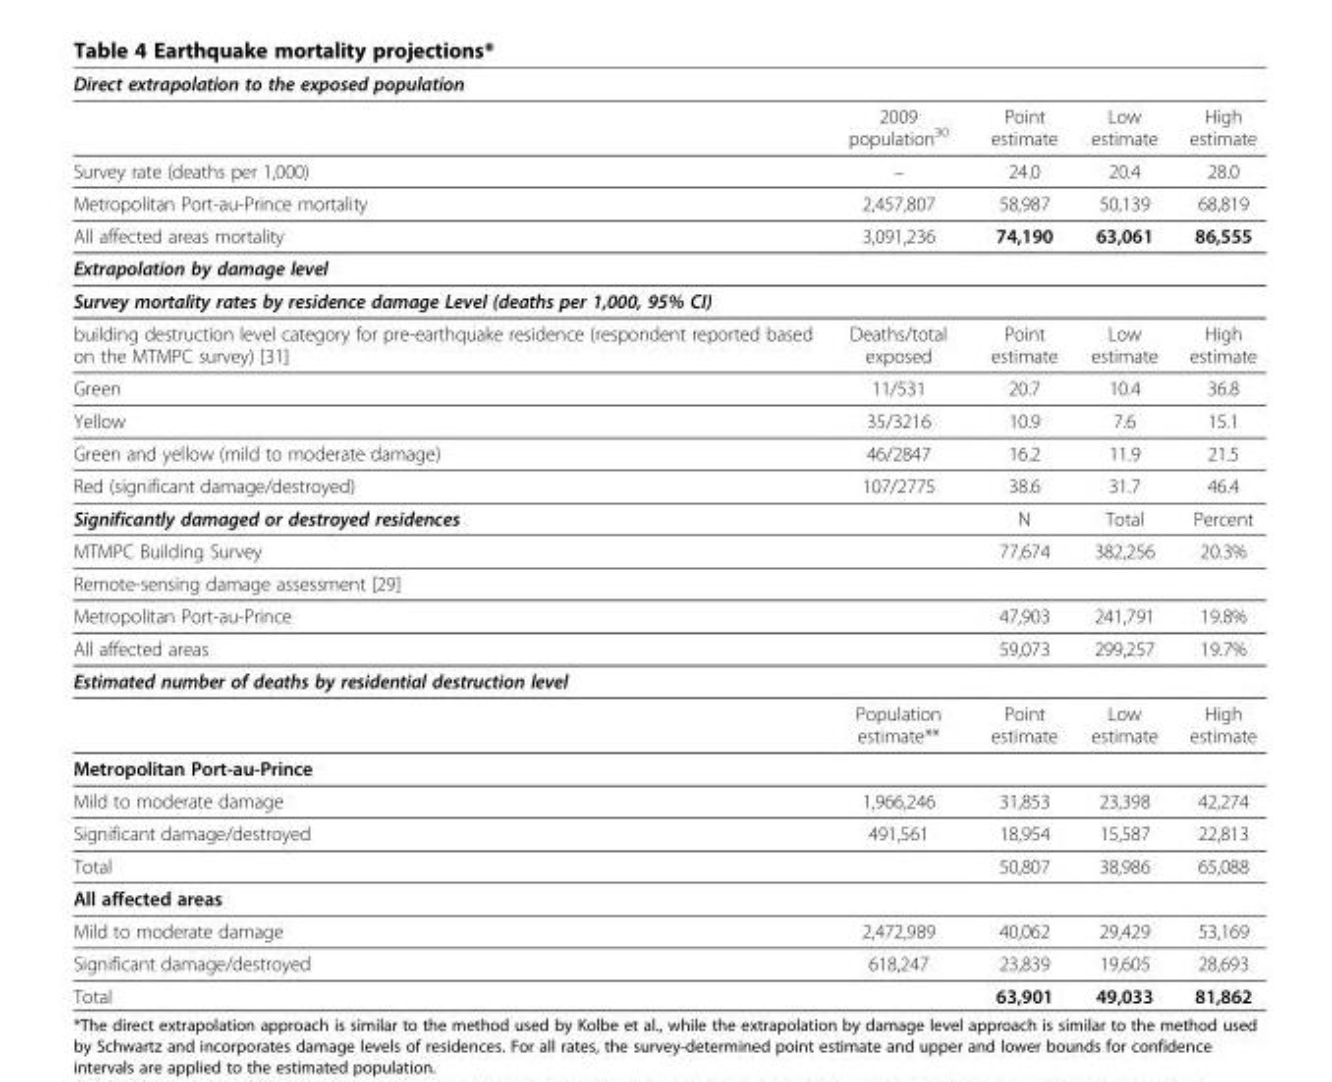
<table><tbody><tr><td colspan="5">Direct extrapolation to the exposed population</td></tr><tr><td></td><td>2009 population<sup>30</sup></td><td>Point estimate</td><td>Low estimate</td><td>High estimate</td></tr><tr><td>Survey rate (deaths per 1,000)</td><td>–</td><td>24.0</td><td>20.4</td><td>28.0</td></tr><tr><td>Metropolitan Port-au-Prince mortality</td><td>2,457,807</td><td>58,987</td><td>50,139</td><td>68,819</td></tr><tr><td>All affected areas mortality</td><td>3,091,236</td><td>74,190</td><td>63,061</td><td>86,555</td></tr><tr><td colspan="5">Extrapolation by damage level</td></tr><tr><td colspan="5">Survey mortality rates by residence damage Level (deaths per 1,000, 95% CI)</td></tr><tr><td>building destruction level category for pre-earthquake residence (respondent reported based on the MTMPC survey) [31]</td><td>Deaths/total exposed</td><td>Point estimate</td><td>Low estimate</td><td>High estimate</td></tr><tr><td>Green</td><td>11/531</td><td>20.7</td><td>10.4</td><td>36.8</td></tr><tr><td>Yellow</td><td>35/3216</td><td>10.9</td><td>7.6</td><td>15.1</td></tr><tr><td>Green and yellow (mild to moderate damage)</td><td>46/2847</td><td>16.2</td><td>11.9</td><td>21.5</td></tr><tr><td>Red (significant damage/destroyed)</td><td>107/2775</td><td>38.6</td><td>31.7</td><td>46.4</td></tr><tr><td colspan="2">Significantly damaged or destroyed residences</td><td>N</td><td>Total</td><td>Percent</td></tr><tr><td>MTMPC Building Survey</td><td></td><td>77,674</td><td>382,256</td><td>20.3%</td></tr><tr><td colspan="5">Remote-sensing damage assessment [29]</td></tr><tr><td>Metropolitan Port-au-Prince</td><td></td><td>47,903</td><td>241,791</td><td>19.8%</td></tr><tr><td>All affected areas</td><td></td><td>59,073</td><td>299,257</td><td>19.7%</td></tr><tr><td colspan="5">Estimated number of deaths by residential destruction level</td></tr><tr><td></td><td>Population estimate**</td><td>Point estimate</td><td>Low estimate</td><td>High estimate</td></tr><tr><td colspan="5">Metropolitan Port-au-Prince</td></tr><tr><td>Mild to moderate damage</td><td>1,966,246</td><td>31,853</td><td>23,398</td><td>42,274</td></tr><tr><td>Significant damage/destroyed</td><td>491,561</td><td>18,954</td><td>15,587</td><td>22,813</td></tr><tr><td>Total</td><td></td><td>50,807</td><td>38,986</td><td>65,088</td></tr><tr><td colspan="5">All affected areas</td></tr><tr><td>Mild to moderate damage</td><td>2,472,989</td><td>40,062</td><td>29,429</td><td>53,169</td></tr><tr><td>Significant damage/destroyed</td><td>618,247</td><td>23,839</td><td>19,605</td><td>28,693</td></tr><tr><td>Total</td><td></td><td>63,901</td><td>49,033</td><td>81,862</td></tr></tbody></table>